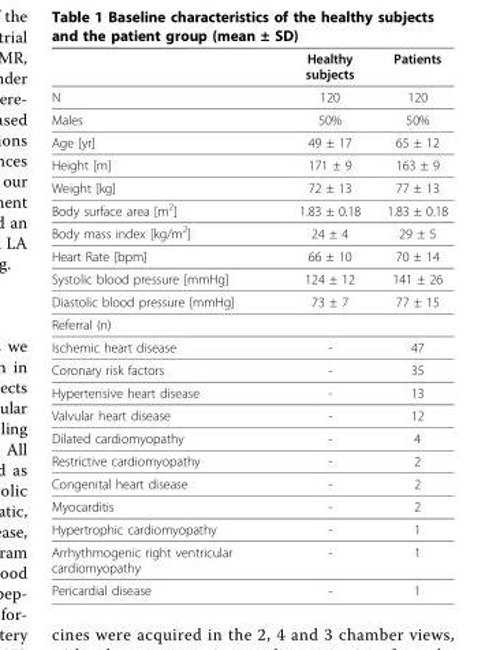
<table><thead><tr><td></td><td>Healthy subjects</td><td>Patients</td></tr></thead><tbody><tr><td>N</td><td>120</td><td>120</td></tr><tr><td>Males</td><td>50%</td><td>50%</td></tr><tr><td>Age [yr]</td><td>49 ± 17</td><td>65 ± 12</td></tr><tr><td>Height [m]</td><td>171 ± 9</td><td>163 ± 9</td></tr><tr><td>Weight [kg]</td><td>72 ± 13</td><td>77 ± 13</td></tr><tr><td>Body surface area [m<sup>2</sup>]</td><td>1.83 ± 0.18</td><td>1.83 ± 0.18</td></tr><tr><td>Body mass index [kg/m<sup>2</sup>]</td><td>24 ± 4</td><td>29 ± 5</td></tr><tr><td>Heart Rate [bpm]</td><td>66 ± 10</td><td>70 ± 14</td></tr><tr><td>Systolic blood pressure [mmHg]</td><td>124 ± 12</td><td>141 ± 26</td></tr><tr><td>Diastolic blood pressure [mmHg]</td><td>73 ± 7</td><td>77 ± 15</td></tr><tr><td colspan="3">Referral (n)</td></tr><tr><td>Ischemic heart disease</td><td>-</td><td>47</td></tr><tr><td>Coronary risk factors</td><td>-</td><td>35</td></tr><tr><td>Hypertensive heart disease</td><td>-</td><td>13</td></tr><tr><td>Valvular heart disease</td><td>-</td><td>12</td></tr><tr><td>Dilated cardiomyopathy</td><td>-</td><td>4</td></tr><tr><td>Restrictive cardiomyopathy</td><td>-</td><td>2</td></tr><tr><td>Congenital heart disease</td><td>-</td><td>2</td></tr><tr><td>Myocarditis</td><td>-</td><td>2</td></tr><tr><td>Hypertrophic cardiomyopathy</td><td>-</td><td>1</td></tr><tr><td>Arrhythmogenic right ventricular cardiomyopathy</td><td>-</td><td>1</td></tr><tr><td>Pericardial disease</td><td>-</td><td>1</td></tr></tbody></table>